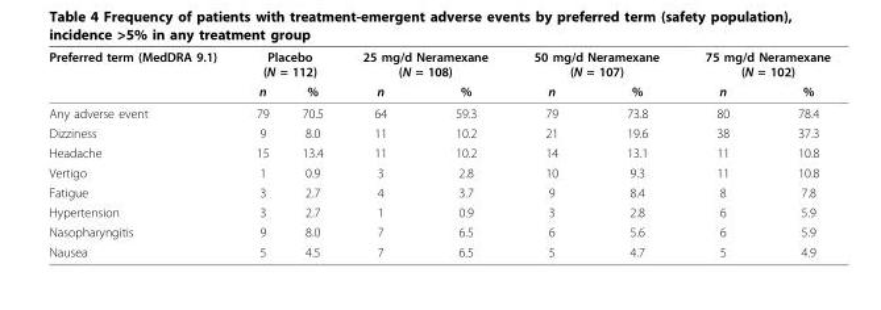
<table><thead><tr><td rowspan="2">Preferred term (MedDRA 9.1)</td><td colspan="2">Placebo (N = 112)</td><td colspan="2">25 mg/d Neramexane (N = 108)</td><td colspan="2">50 mg/d Neramexane (N = 107)</td><td colspan="2">75 mg/d Neramexane (N = 102)</td></tr><tr><td>n</td><td>%</td><td>n</td><td>%</td><td>n</td><td>%</td><td>n</td><td>%</td></tr></thead><tbody><tr><td>Any adverse event</td><td>79</td><td>70.5</td><td>64</td><td>59.3</td><td>79</td><td>73.8</td><td>80</td><td>78.4</td></tr><tr><td>Dizziness</td><td>9</td><td>8.0</td><td>11</td><td>10.2</td><td>21</td><td>19.6</td><td>38</td><td>37.3</td></tr><tr><td>Headache</td><td>15</td><td>13.4</td><td>11</td><td>10.2</td><td>14</td><td>13.1</td><td>11</td><td>10.8</td></tr><tr><td>Vertigo</td><td>1</td><td>0.9</td><td>3</td><td>2.8</td><td>10</td><td>9.3</td><td>11</td><td>10.8</td></tr><tr><td>Fatigue</td><td>3</td><td>2.7</td><td>4</td><td>3.7</td><td>9</td><td>8.4</td><td>8</td><td>7.8</td></tr><tr><td>Hypertension</td><td>3</td><td>2.7</td><td>1</td><td>0.9</td><td>3</td><td>2.8</td><td>6</td><td>5.9</td></tr><tr><td>Nasopharyngitis</td><td>9</td><td>8.0</td><td>7</td><td>6.5</td><td>6</td><td>5.6</td><td>6</td><td>5.9</td></tr><tr><td>Nausea</td><td>5</td><td>4.5</td><td>7</td><td>6.5</td><td>5</td><td>4.7</td><td>5</td><td>4.9</td></tr></tbody></table>